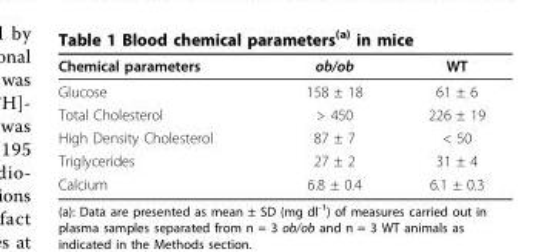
<table><thead><tr><td>Chemical parameters</td><td>ob/ob</td><td>WT</td></tr></thead><tbody><tr><td>Glucose</td><td>158 ± 18</td><td>61 ± 6</td></tr><tr><td>Total Cholesterol</td><td>&gt; 450</td><td>226 ± 19</td></tr><tr><td>High Density Cholesterol</td><td>87 ± 7</td><td>&lt; 50</td></tr><tr><td>Triglycerides</td><td>27 ± 2</td><td>31 ± 4</td></tr><tr><td>Calcium</td><td>6.8 ± 0.4</td><td>6.1 ± 0.3</td></tr></tbody></table>